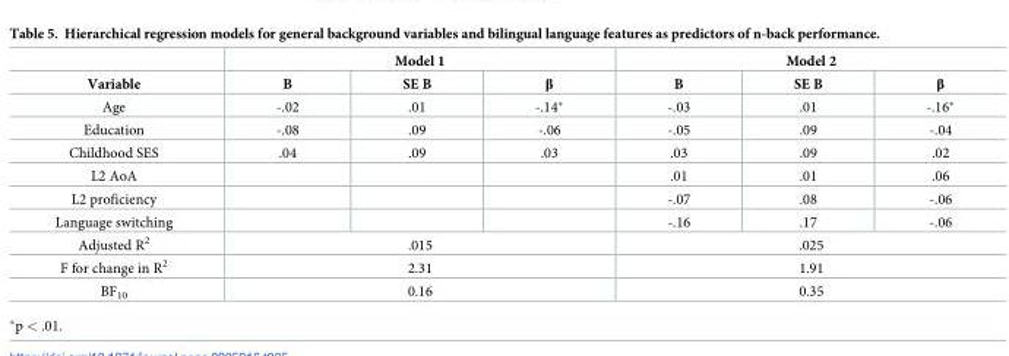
<table><thead><tr><td rowspan="2">Variable</td><td colspan="3">Model 1</td><td colspan="3">Model 2</td></tr><tr><td>B</td><td>SE B</td><td>β</td><td>B</td><td>SE B</td><td>β</td></tr></thead><tbody><tr><td>Age</td><td>-.02</td><td>.01</td><td>-.14*</td><td>-.03</td><td>.01</td><td>-.16*</td></tr><tr><td>Education</td><td>-.08</td><td>.09</td><td>-.06</td><td>-.05</td><td>.09</td><td>-.04</td></tr><tr><td>Childhood SES</td><td>.04</td><td>.09</td><td>.03</td><td>.03</td><td>.09</td><td>.02</td></tr><tr><td>L2 AoA</td><td></td><td></td><td></td><td>.01</td><td>.01</td><td>.06</td></tr><tr><td>L2 proficiency</td><td></td><td></td><td></td><td>-.07</td><td>.08</td><td>-.06</td></tr><tr><td>Language switching</td><td></td><td></td><td></td><td>-.16</td><td>.17</td><td>-.06</td></tr><tr><td>Adjusted R<sup>2</sup></td><td colspan="3">.015</td><td colspan="3">.025</td></tr><tr><td>F for change in R<sup>2</sup></td><td colspan="3">2.31</td><td colspan="3">1.91</td></tr><tr><td>BF<sub>10</sub></td><td colspan="3">0.16</td><td colspan="3">0.35</td></tr></tbody></table>